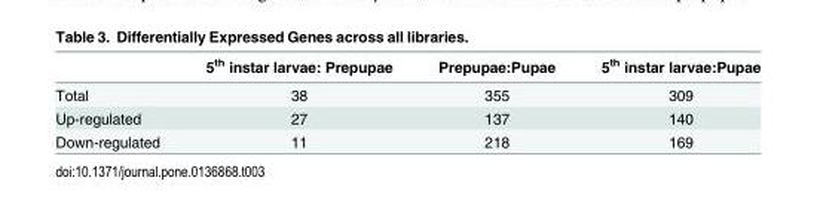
<table><thead><tr><td></td><td>5<sup>th</sup> instar larvae: Prepupae</td><td>Prepupae:Pupae</td><td>5<sup>th</sup> instar larvae:Pupae</td></tr></thead><tbody><tr><td>Total</td><td>38</td><td>355</td><td>309</td></tr><tr><td>Up-regulated</td><td>27</td><td>137</td><td>140</td></tr><tr><td>Down-regulated</td><td>11</td><td>218</td><td>169</td></tr></tbody></table>